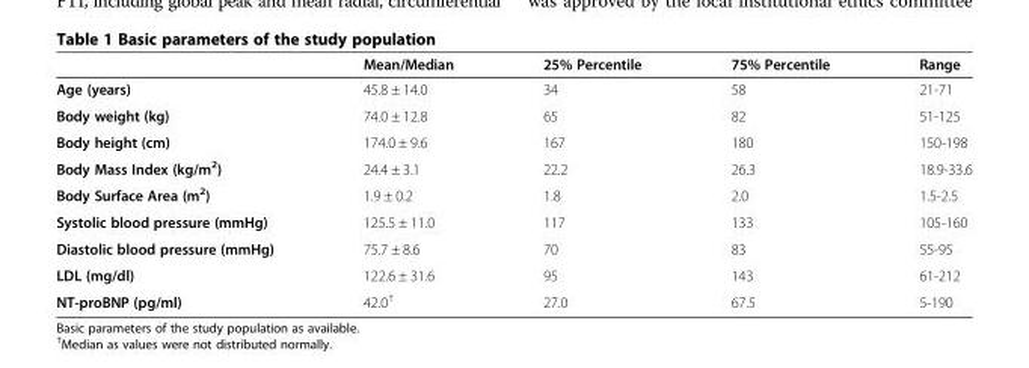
<table><thead><tr><td></td><td>Mean/Median</td><td>25% Percentile</td><td>75% Percentile</td><td>Range</td></tr></thead><tbody><tr><td>Age (years)</td><td>45.8 ± 14.0</td><td>34</td><td>58</td><td>21-71</td></tr><tr><td>Body weight (kg)</td><td>74.0 ± 12.8</td><td>65</td><td>82</td><td>51-125</td></tr><tr><td>Body height (cm)</td><td>174.0 ± 9.6</td><td>167</td><td>180</td><td>150-198</td></tr><tr><td>Body Mass Index (kg/m<sup>2</sup>)</td><td>24.4 ± 3.1</td><td>22.2</td><td>26.3</td><td>18.9-33.6</td></tr><tr><td>Body Surface Area (m<sup>2</sup>)</td><td>1.9 ± 0.2</td><td>1.8</td><td>2.0</td><td>1.5-2.5</td></tr><tr><td>Systolic blood pressure (mmHg)</td><td>125.5 ± 11.0</td><td>117</td><td>133</td><td>105-160</td></tr><tr><td>Diastolic blood pressure (mmHg)</td><td>75.7 ± 8.6</td><td>70</td><td>83</td><td>55-95</td></tr><tr><td>LDL (mg/dl)</td><td>122.6 ± 31.6</td><td>95</td><td>143</td><td>61-212</td></tr><tr><td>NT-proBNP (pg/ml)</td><td>42.0<sup>†</sup></td><td>27.0</td><td>67.5</td><td>5-190</td></tr></tbody></table>